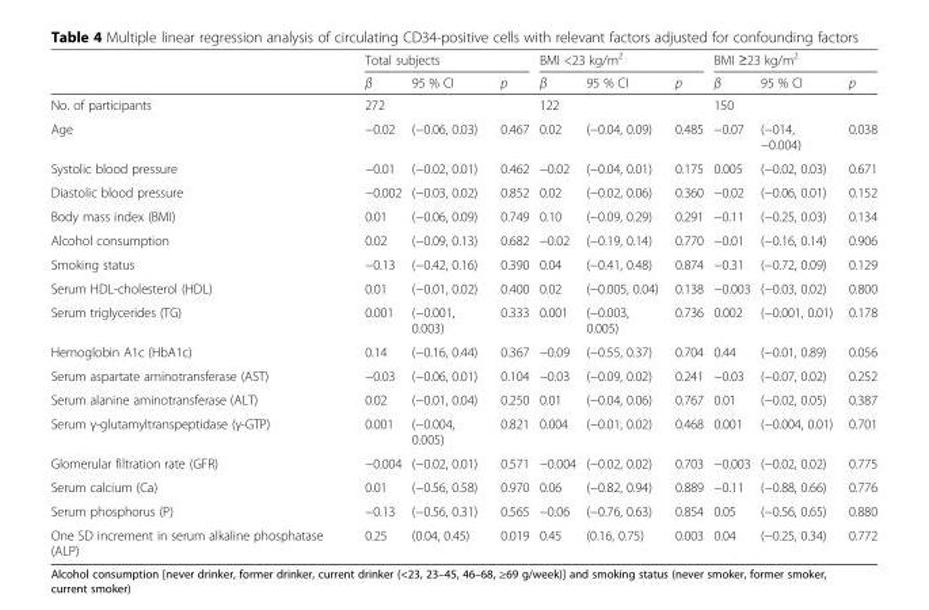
<table><thead><tr><td rowspan="2"></td><td colspan="3">Total subjects</td><td colspan="3">BMI &lt;23 kg/m<sup>2</sup></td><td colspan="3">BMI ≥23 kg/m<sup>2</sup></td></tr><tr><td>β</td><td>95 % CI</td><td>p</td><td>β</td><td>95 % CI</td><td>p</td><td>β</td><td>95 % CI</td><td>p</td></tr></thead><tbody><tr><td>No. of participants</td><td colspan="3">272</td><td colspan="3">122</td><td colspan="3">150</td></tr><tr><td>Age</td><td>−0.02</td><td>(−0.06, 0.03)</td><td>0.467</td><td>0.02</td><td>(−0.04, 0.09)</td><td>0.485</td><td>−0.07</td><td>(−014, −0.004)</td><td>0.038</td></tr><tr><td>Systolic blood pressure</td><td>−0.01</td><td>(−0.02, 0.01)</td><td>0.462</td><td>−0.02</td><td>(−0.04, 0.01)</td><td>0.175</td><td>0.005</td><td>(−0.02, 0.03)</td><td>0.671</td></tr><tr><td>Diastolic blood pressure</td><td>−0.002</td><td>(−0.03, 0.02)</td><td>0.852</td><td>0.02</td><td>(−0.02, 0.06)</td><td>0.360</td><td>−0.02</td><td>(−0.06, 0.01)</td><td>0.152</td></tr><tr><td>Body mass index (BMI)</td><td>0.01</td><td>(−0.06, 0.09)</td><td>0.749</td><td>0.10</td><td>(−0.09, 0.29)</td><td>0.291</td><td>−0.11</td><td>(−0.25, 0.03)</td><td>0.134</td></tr><tr><td>Alcohol consumption</td><td>0.02</td><td>(−0.09, 0.13)</td><td>0.682</td><td>−0.02</td><td>(−0.19, 0.14)</td><td>0.770</td><td>−0.01</td><td>(−0.16, 0.14)</td><td>0.906</td></tr><tr><td>Smoking status</td><td>−0.13</td><td>(−0.42, 0.16)</td><td>0.390</td><td>0.04</td><td>(−0.41, 0.48)</td><td>0.874</td><td>−0.31</td><td>(−0.72, 0.09)</td><td>0.129</td></tr><tr><td>Serum HDL-cholesterol (HDL)</td><td>0.01</td><td>(−0.01, 0.02)</td><td>0.400</td><td>0.02</td><td>(−0.005, 0.04)</td><td>0.138</td><td>−0.003</td><td>(−0.03, 0.02)</td><td>0.800</td></tr><tr><td>Serum triglycerides (TG)</td><td>0.001</td><td>(−0.001, 0.003)</td><td>0.333</td><td>0.001</td><td>(−0.003, 0.005)</td><td>0.736</td><td>0.002</td><td>(−0.001, 0.01)</td><td>0.178</td></tr><tr><td>Hemoglobin A1c (HbA1c)</td><td>0.14</td><td>(−0.16, 0.44)</td><td>0.367</td><td>−0.09</td><td>(−0.55, 0.37)</td><td>0.704</td><td>0.44</td><td>(−0.01, 0.89)</td><td>0.056</td></tr><tr><td>Serum aspartate aminotransferase (AST)</td><td>−0.03</td><td>(−0.06, 0.01)</td><td>0.104</td><td>−0.03</td><td>(−0.09, 0.02)</td><td>0.241</td><td>−0.03</td><td>(−0.07, 0.02)</td><td>0.252</td></tr><tr><td>Serum alanine aminotransferase (ALT)</td><td>0.02</td><td>(−0.01, 0.04)</td><td>0.250</td><td>0.01</td><td>(−0.04, 0.06)</td><td>0.767</td><td>0.01</td><td>(−0.02, 0.05)</td><td>0.387</td></tr><tr><td>Serum γ-glutamyltranspeptidase (γ-GTP)</td><td>0.001</td><td>(−0.004, 0.005)</td><td>0.821</td><td>0.004</td><td>(−0.01, 0.02)</td><td>0.468</td><td>0.001</td><td>(−0.004, 0.01)</td><td>0.701</td></tr><tr><td>Glomerular filtration rate (GFR)</td><td>−0.004</td><td>(−0.02, 0.01)</td><td>0.571</td><td>−0.004</td><td>(−0.02, 0.02)</td><td>0.703</td><td>−0.003</td><td>(−0.02, 0.02)</td><td>0.775</td></tr><tr><td>Serum calcium (Ca)</td><td>0.01</td><td>(−0.56, 0.58)</td><td>0.970</td><td>0.06</td><td>(−0.82, 0.94)</td><td>0.889</td><td>−0.11</td><td>(−0.88, 0.66)</td><td>0.776</td></tr><tr><td>Serum phosphorus (P)</td><td>−0.13</td><td>(−0.56, 0.31)</td><td>0.565</td><td>−0.06</td><td>(−0.76, 0.63)</td><td>0.854</td><td>0.05</td><td>(−0.56, 0.65)</td><td>0.880</td></tr><tr><td>One SD increment in serum alkaline phosphatase (ALP)</td><td>0.25</td><td>(0.04, 0.45)</td><td>0.019</td><td>0.45</td><td>(0.16, 0.75)</td><td>0.003</td><td>0.04</td><td>(−0.25, 0.34)</td><td>0.772</td></tr></tbody></table>